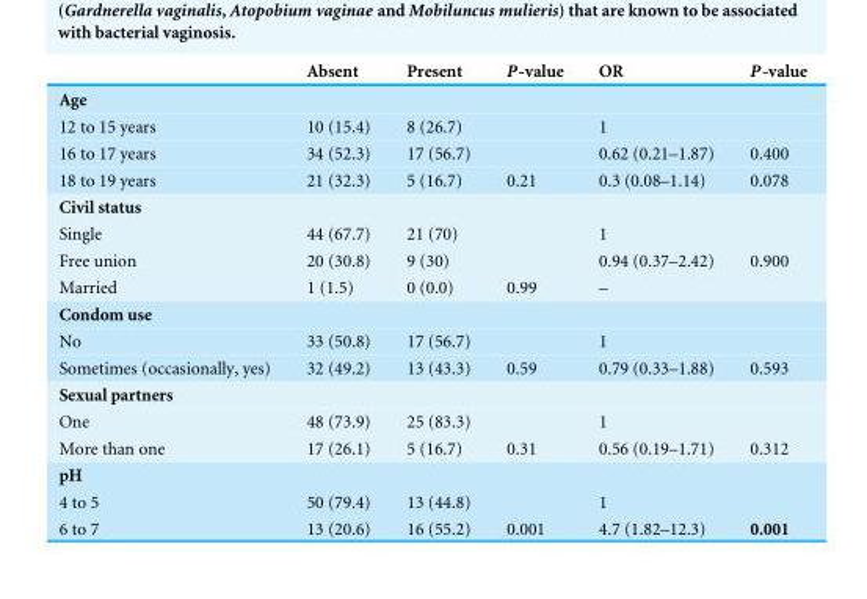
<table><thead><tr><td></td><td>Absent</td><td>Present</td><td>P-value</td><td>OR</td><td>P-value</td></tr></thead><tbody><tr><td colspan="6">Age</td></tr><tr><td>12 to 15 years</td><td>10 (15.4)</td><td>8 (26.7)</td><td></td><td>1</td><td></td></tr><tr><td>16 to 17 years</td><td>34 (52.3)</td><td>17 (56.7)</td><td></td><td>0.62 (0.21–1.87)</td><td>0.400</td></tr><tr><td>18 to 19 years</td><td>21 (32.3)</td><td>5 (16.7)</td><td>0.21</td><td>0.3 (0.08–1.14)</td><td>0.078</td></tr><tr><td colspan="6">Civil status</td></tr><tr><td>Single</td><td>44 (67.7)</td><td>21 (70)</td><td></td><td>1</td><td></td></tr><tr><td>Free union</td><td>20 (30.8)</td><td>9 (30)</td><td></td><td>0.94 (0.37–2.42)</td><td>0.900</td></tr><tr><td>Married</td><td>1 (1.5)</td><td>0 (0.0)</td><td>0.99</td><td>–</td><td></td></tr><tr><td colspan="6">Condom use</td></tr><tr><td>No</td><td>33 (50.8)</td><td>17 (56.7)</td><td></td><td>1</td><td></td></tr><tr><td>Sometimes (occasionally, yes)</td><td>32 (49.2)</td><td>13 (43.3)</td><td>0.59</td><td>0.79 (0.33–1.88)</td><td>0.593</td></tr><tr><td colspan="6">Sexual partners</td></tr><tr><td>One</td><td>48 (73.9)</td><td>25 (83.3)</td><td></td><td>1</td><td></td></tr><tr><td>More than one</td><td>17 (26.1)</td><td>5 (16.7)</td><td>0.31</td><td>0.56 (0.19–1.71)</td><td>0.312</td></tr><tr><td colspan="6">pH</td></tr><tr><td>4 to 5</td><td>50 (79.4)</td><td>13 (44.8)</td><td></td><td>1</td><td></td></tr><tr><td>6 to 7</td><td>13 (20.6)</td><td>16 (55.2)</td><td>0.001</td><td>4.7 (1.82–12.3)</td><td>0.001</td></tr></tbody></table>